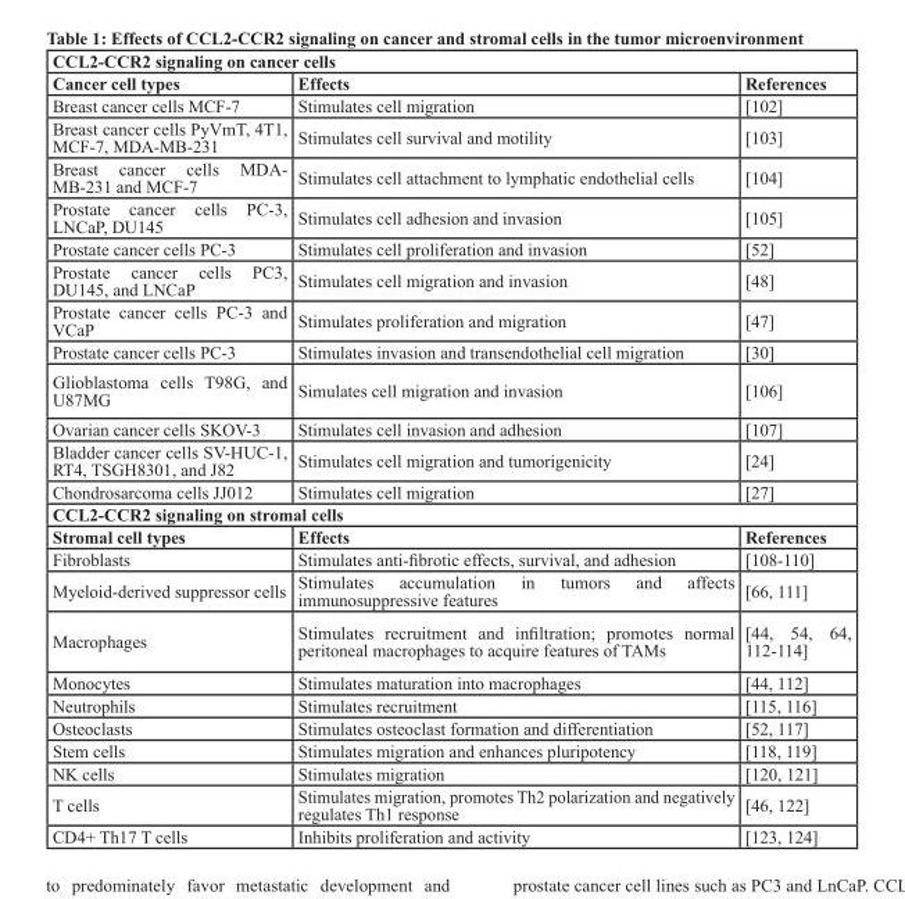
<table><thead><tr><td colspan="3">CCL2-CCR2 signaling on cancer cells</td></tr><tr><td>Cancer cell types</td><td>Effects</td><td>References</td></tr></thead><tbody><tr><td>Breast cancer cells MCF-7</td><td>Stimulates cell migration</td><td>[102]</td></tr><tr><td>Breast cancer cells PyVmT, 4T1, MCF-7, MDA-MB-231</td><td>Stimulates cell survival and motility</td><td>[103]</td></tr><tr><td>Breast cancer cells MDA- MB-231 and MCF-7</td><td>Stimulates cell attachment to lymphatic endothelial cells</td><td>[104]</td></tr><tr><td>Prostate cancer cells PC-3, LNCaP, DU145</td><td>Stimulates cell adhesion and invasion</td><td>[105]</td></tr><tr><td>Prostate cancer cells PC-3</td><td>Stimulates cell proliferation and invasion</td><td>[52]</td></tr><tr><td>Prostate cancer cells PC3, DU145, and LNCaP</td><td>Stimulates cell migration and invasion</td><td>[48]</td></tr><tr><td>Prostate cancer cells PC-3 and VCaP</td><td>Stimulates proliferation and migration</td><td>[47]</td></tr><tr><td>Prostate cancer cells PC-3</td><td>Stimulates invasion and transendothelial cell migration</td><td>[30]</td></tr><tr><td>Glioblastoma cells T98G, and U87MG</td><td>Simulates cell migration and invasion</td><td>[106]</td></tr><tr><td>Ovarian cancer cells SKOV-3</td><td>Stimulates cell invasion and adhesion</td><td>[107]</td></tr><tr><td>Bladder cancer cells SV-HUC-1, RT4, TSGH8301, and J82</td><td>Stimulates cell migration and tumorigenicity</td><td>[24]</td></tr><tr><td>Chondrosarcoma cells JJ012</td><td>Stimulates cell migration</td><td>[27]</td></tr><tr><td colspan="3">CCL2-CCR2 signaling on stromal cells</td></tr><tr><td>Stromal cell types</td><td>Effects</td><td>References</td></tr><tr><td>Fibroblasts</td><td>Stimulates anti-fibrotic effects, survival, and adhesion</td><td>[108-110]</td></tr><tr><td>Myeloid-derived suppressor cells</td><td>Stimulates accumulation in tumors and affects immunosuppressive features</td><td>[66, 111]</td></tr><tr><td>Macrophages</td><td>Stimulates recruitment and infiltration; promotes normal peritoneal macrophages to acquire features of TAMs</td><td>[44, 54, 64, 112-114]</td></tr><tr><td>Monocytes</td><td>Stimulates maturation into macrophages</td><td>[44, 112]</td></tr><tr><td>Neutrophils</td><td>Stimulates recruitment</td><td>[115, 116]</td></tr><tr><td>Osteoclasts</td><td>Stimulates osteoclast formation and differentiation</td><td>[52, 117]</td></tr><tr><td>Stem cells</td><td>Stimulates migration and enhances pluripotency</td><td>[118, 119]</td></tr><tr><td>NK cells</td><td>Stimulates migration</td><td>[120, 121]</td></tr><tr><td>T cells</td><td>Stimulates migration, promotes Th2 polarization and negatively regulates Th1 response</td><td>[46, 122]</td></tr><tr><td>CD4+ Th17 T cells</td><td>Inhibits proliferation and activity</td><td>[123, 124]</td></tr></tbody></table>